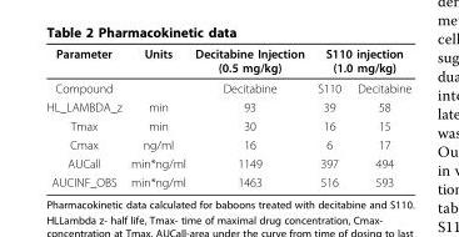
<table><thead><tr><td rowspan="2">Parameter Compound</td><td rowspan="2">Units</td><td rowspan="2">Decitabine Injection (0.5 mg/kg) Decitabine</td><td colspan="2">S110 injection (1.0 mg/kg)</td></tr><tr><td>S110</td><td>Decitabine</td></tr></thead><tbody><tr><td>HL_LAMBDA_z</td><td>min</td><td>93</td><td>39</td><td>58</td></tr><tr><td>Tmax</td><td>min</td><td>30</td><td>16</td><td>15</td></tr><tr><td>Cmax</td><td>ng/ml</td><td>16</td><td>6</td><td>17</td></tr><tr><td>AUCall</td><td>min*ng/ml</td><td>1149</td><td>397</td><td>494</td></tr><tr><td>AUCINF_OBS</td><td>min*ng/ml</td><td>1463</td><td>516</td><td>593</td></tr></tbody></table>